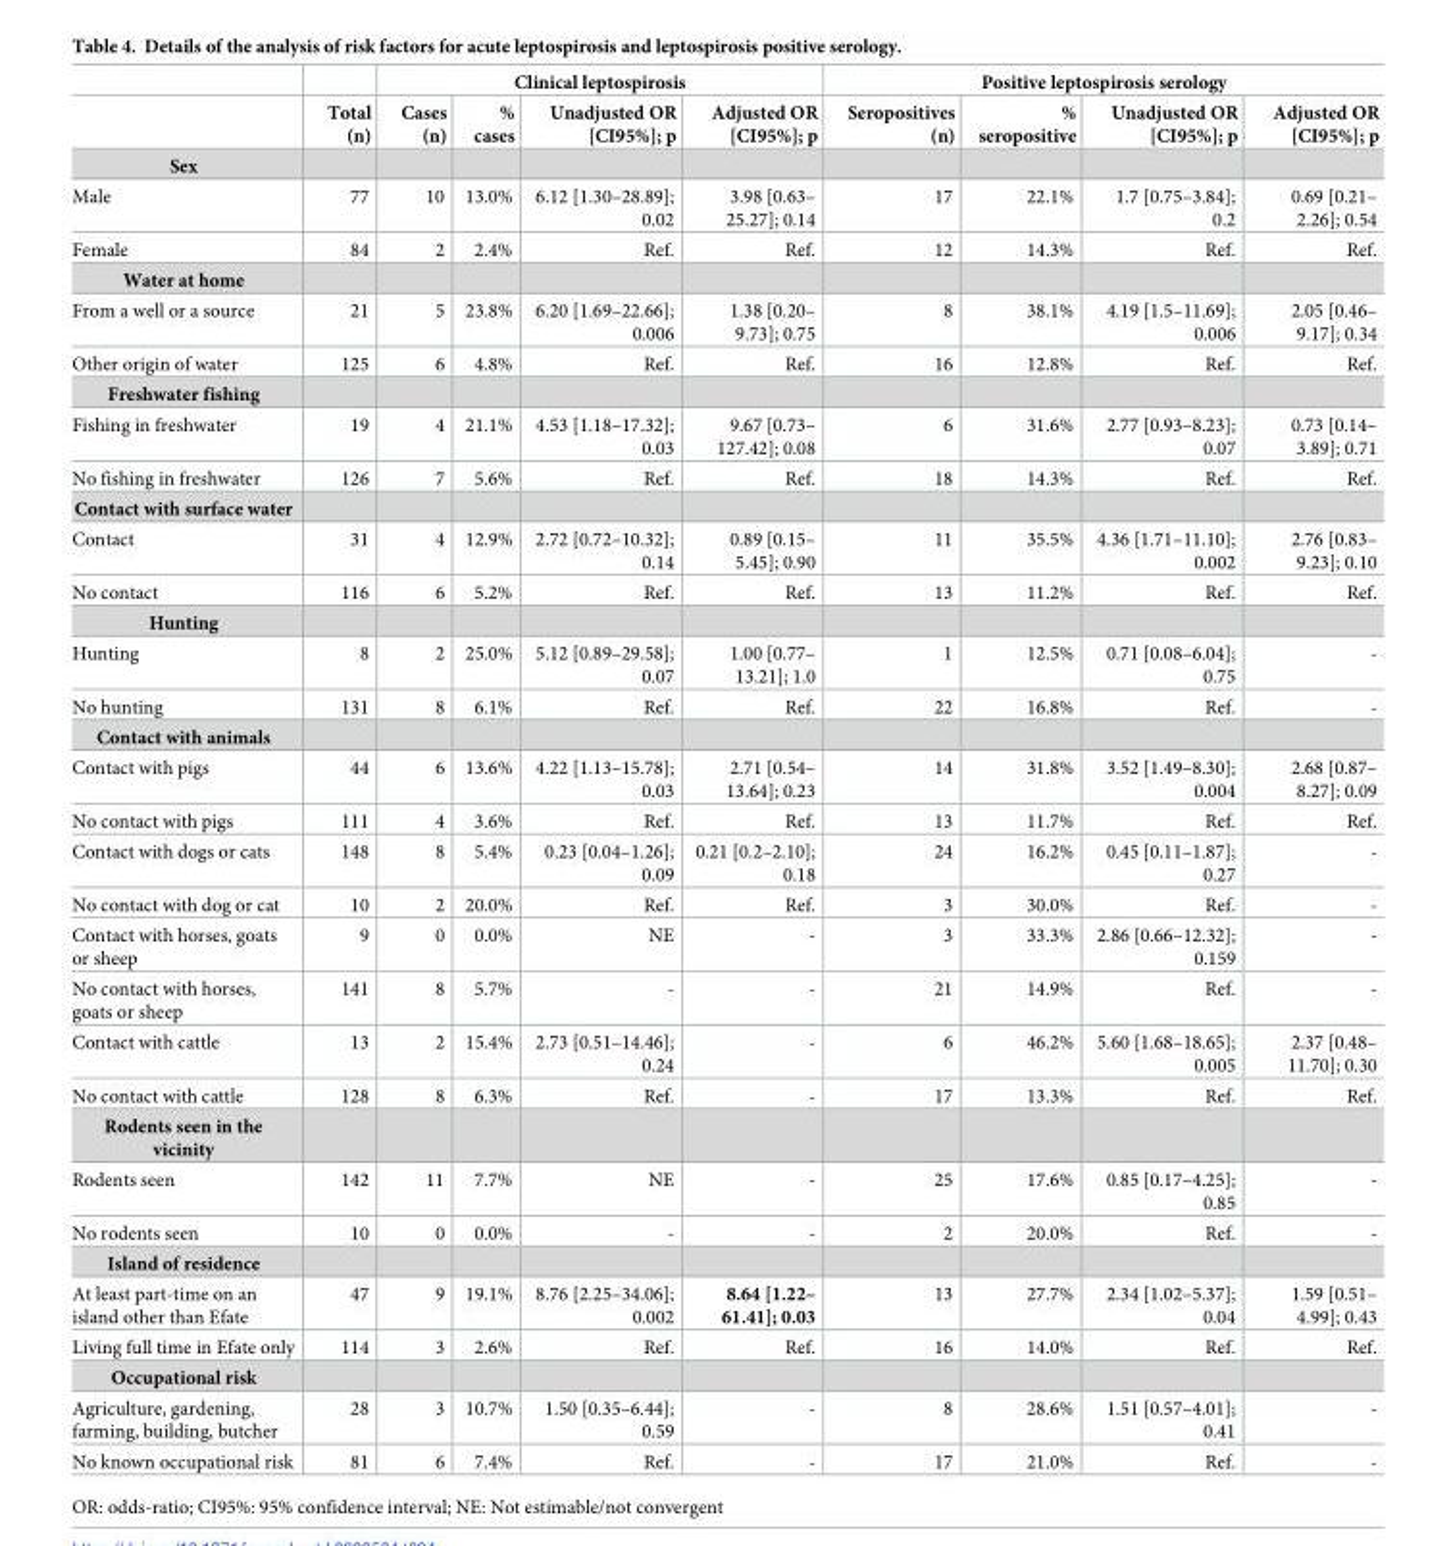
<table><thead><tr><td rowspan="2"></td><td rowspan="2">Total (n)</td><td colspan="4">Clinical leptospirosis</td><td colspan="4">Positive leptospirosis serology</td></tr><tr><td>Cases (n)</td><td>% cases</td><td>Unadjusted OR [CI95%]; p</td><td>Adjusted OR [CI95%]; p</td><td>Seropositives (n)</td><td>% seropositive</td><td>Unadjusted OR [CI95%]; p</td><td>Adjusted OR [CI95%]; p</td></tr></thead><tbody><tr><td colspan="10">Sex</td></tr><tr><td>Male</td><td>77</td><td>10</td><td>13.0%</td><td>6.12 [1.30–28.89]; 0.02</td><td>3.98 [0.63– 25.27]; 0.14</td><td>17</td><td>22.1%</td><td>1.7 [0.75–3.84]; 0.2</td><td>0.69 [0.21– 2.26]; 0.54</td></tr><tr><td>Female</td><td>84</td><td>2</td><td>2.4%</td><td>Ref.</td><td>Ref.</td><td>12</td><td>14.3%</td><td>Ref.</td><td>Ref.</td></tr><tr><td colspan="10">Water at home</td></tr><tr><td>From a well or a source</td><td>21</td><td>5</td><td>23.8%</td><td>6.20 [1.69–22.66]; 0.006</td><td>1.38 [0.20– 9.73]; 0.75</td><td>8</td><td>38.1%</td><td>4.19 [1.5–11.69]; 0.006</td><td>2.05 [0.46– 9.17]; 0.34</td></tr><tr><td>Other origin of water</td><td>125</td><td>6</td><td>4.8%</td><td>Ref.</td><td>Ref.</td><td>16</td><td>12.8%</td><td>Ref.</td><td>Ref.</td></tr><tr><td colspan="10">Freshwater fishing</td></tr><tr><td>Fishing in freshwater</td><td>19</td><td>4</td><td>21.1%</td><td>4.53 [1.18–17.32]; 0.03</td><td>9.67 [0.73– 127.42]; 0.08</td><td>6</td><td>31.6%</td><td>2.77 [0.93–8.23]; 0.07</td><td>0.73 [0.14– 3.89]; 0.71</td></tr><tr><td>No fishing in freshwater</td><td>126</td><td>7</td><td>5.6%</td><td>Ref.</td><td>Ref.</td><td>18</td><td>14.3%</td><td>Ref.</td><td>Ref.</td></tr><tr><td colspan="10">Contact with surface water</td></tr><tr><td>Contact</td><td>31</td><td>4</td><td>12.9%</td><td>2.72 [0.72–10.32]; 0.14</td><td>0.89 [0.15– 5.45]; 0.90</td><td>11</td><td>35.5%</td><td>4.36 [1.71–11.10]; 0.002</td><td>2.76 [0.83– 9.23]; 0.10</td></tr><tr><td>No contact</td><td>116</td><td>6</td><td>5.2%</td><td>Ref.</td><td>Ref.</td><td>13</td><td>11.2%</td><td>Ref.</td><td>Ref.</td></tr><tr><td colspan="10">Hunting</td></tr><tr><td>Hunting</td><td>8</td><td>2</td><td>25.0%</td><td>5.12 [0.89–29.58]; 0.07</td><td>1.00 [0.77– 13.21]; 1.0</td><td>1</td><td>12.5%</td><td>0.71 [0.08–6.04]; 0.75</td><td>-</td></tr><tr><td>No hunting</td><td>131</td><td>8</td><td>6.1%</td><td>Ref.</td><td>Ref.</td><td>22</td><td>16.8%</td><td>Ref.</td><td>-</td></tr><tr><td colspan="10">Contact with animals</td></tr><tr><td>Contact with pigs</td><td>44</td><td>6</td><td>13.6%</td><td>4.22 [1.13–15.78]; 0.03</td><td>2.71 [0.54– 13.64]; 0.23</td><td>14</td><td>31.8%</td><td>3.52 [1.49–8.30]; 0.004</td><td>2.68 [0.87– 8.27]; 0.09</td></tr><tr><td>No contact with pigs</td><td>111</td><td>4</td><td>3.6%</td><td>Ref.</td><td>Ref.</td><td>13</td><td>11.7%</td><td>Ref.</td><td>Ref.</td></tr><tr><td>Contact with dogs or cats</td><td>148</td><td>8</td><td>5.4%</td><td>0.23 [0.04–1.26]; 0.09</td><td>0.21 [0.2–2.10]; 0.18</td><td>24</td><td>16.2%</td><td>0.45 [0.11–1.87]; 0.27</td><td>-</td></tr><tr><td>No contact with dog or cat</td><td>10</td><td>2</td><td>20.0%</td><td>Ref.</td><td>Ref.</td><td>3</td><td>30.0%</td><td>Ref.</td><td>-</td></tr><tr><td>Contact with horses, goats or sheep</td><td>9</td><td>0</td><td>0.0%</td><td>NE</td><td>-</td><td>3</td><td>33.3%</td><td>2.86 [0.66–12.32]; 0.159</td><td>-</td></tr><tr><td>No contact with horses, goats or sheep</td><td>141</td><td>8</td><td>5.7%</td><td>-</td><td>-</td><td>21</td><td>14.9%</td><td>Ref.</td><td>-</td></tr><tr><td>Contact with cattle</td><td>13</td><td>2</td><td>15.4%</td><td>2.73 [0.51–14.46]; 0.24</td><td>-</td><td>6</td><td>46.2%</td><td>5.60 [1.68–18.65]; 0.005</td><td>2.37 [0.48– 11.70]; 0.30</td></tr><tr><td>No contact with cattle</td><td>128</td><td>8</td><td>6.3%</td><td>Ref.</td><td>-</td><td>17</td><td>13.3%</td><td>Ref.</td><td>Ref.</td></tr><tr><td colspan="10">Rodents seen in the vicinity</td></tr><tr><td>Rodents seen</td><td>142</td><td>11</td><td>7.7%</td><td>NE</td><td>-</td><td>25</td><td>17.6%</td><td>0.85 [0.17–4.25]; 0.85</td><td>-</td></tr><tr><td>No rodents seen</td><td>10</td><td>0</td><td>0.0%</td><td>-</td><td>-</td><td>2</td><td>20.0%</td><td>Ref.</td><td>-</td></tr><tr><td colspan="10">Island of residence</td></tr><tr><td>At least part-time on an island other than Efate</td><td>47</td><td>9</td><td>19.1%</td><td>8.76 [2.25–34.06]; 0.002</td><td>8.64 [1.22– 61.41]; 0.03</td><td>13</td><td>27.7%</td><td>2.34 [1.02–5.37]; 0.04</td><td>1.59 [0.51– 4.99]; 0.43</td></tr><tr><td>Living full time in Efate only</td><td>114</td><td>3</td><td>2.6%</td><td>Ref.</td><td>Ref.</td><td>16</td><td>14.0%</td><td>Ref.</td><td>Ref.</td></tr><tr><td colspan="10">Occupational risk</td></tr><tr><td>Agriculture, gardening, farming, building, butcher</td><td>28</td><td>3</td><td>10.7%</td><td>1.50 [0.35–6.44]; 0.59</td><td>-</td><td>8</td><td>28.6%</td><td>1.51 [0.57–4.01]; 0.41</td><td>-</td></tr><tr><td>No known occupational risk</td><td>81</td><td>6</td><td>7.4%</td><td>Ref.</td><td>-</td><td>17</td><td>21.0%</td><td>Ref.</td><td>-</td></tr></tbody></table>